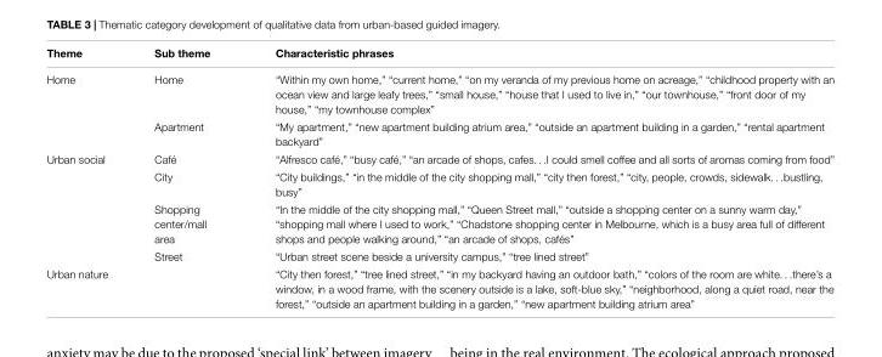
<table><thead><tr><td>Theme</td><td>Sub theme</td><td>Characteristic phrases</td></tr></thead><tbody><tr><td rowspan="2">Home</td><td>Home</td><td>“Within my own home,” “current home,” “on my veranda of my previous home on acreage,” “childhood property with an ocean view and large leafy trees,” “small house,” “house that I used to live in,” “our townhouse,” “front door of my house,” “my townhouse complex”</td></tr><tr><td>Apartment</td><td>“My apartment,” “new apartment building atrium area,” “outside an apartment building in a garden,” “rental apartment backyard”</td></tr><tr><td rowspan="4">Urban social</td><td>Café</td><td>“Alfresco café,” “busy café,” “an arcade of shops, cafes. . .I could smell coffee and all sorts of aromas coming from food”</td></tr><tr><td>City</td><td>“City buildings,” “in the middle of the city shopping mall,” “city then forest,” “city, people, crowds, sidewalk. . .bustling, busy”</td></tr><tr><td>Shopping center/mall area</td><td>“In the middle of the city shopping mall,” “Queen Street mall,” “outside a shopping center on a sunny warm day,” “shopping mall where I used to work,” “Chadstone shopping center in Melbourne, which is a busy area full of different shops and people walking around,” “an arcade of shops, cafés”</td></tr><tr><td>Street</td><td>“Urban street scene beside a university campus,” “tree lined street”</td></tr><tr><td>Urban nature</td><td></td><td>“City then forest,” “tree lined street,” “in my backyard having an outdoor bath,” “colors of the room are white. . .there’s a window, in a wood frame, with the scenery outside is a lake, soft-blue sky,” “neighborhood, along a quiet road, near the forest,” “outside an apartment building in a garden,” “new apartment building atrium area”</td></tr></tbody></table>